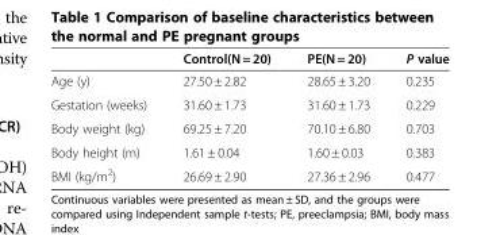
<table><thead><tr><td></td><td>Control(N = 20)</td><td>PE(N = 20)</td><td>P value</td></tr></thead><tbody><tr><td>Age (y)</td><td>27.50 ± 2.82</td><td>28.65 ± 3.20</td><td>0.235</td></tr><tr><td>Gestation (weeks)</td><td>31.60 ± 1.73</td><td>31.60 ± 1.73</td><td>0.229</td></tr><tr><td>Body weight (kg)</td><td>69.25 ± 7.20</td><td>70.10 ± 6.80</td><td>0.703</td></tr><tr><td>Body height (m)</td><td>1.61 ± 0.04</td><td>1.60 ± 0.03</td><td>0.383</td></tr><tr><td>BMI (kg/m<sup>2</sup>)</td><td>26.69 ± 2.90</td><td>27.36 ± 2.96</td><td>0.477</td></tr></tbody></table>